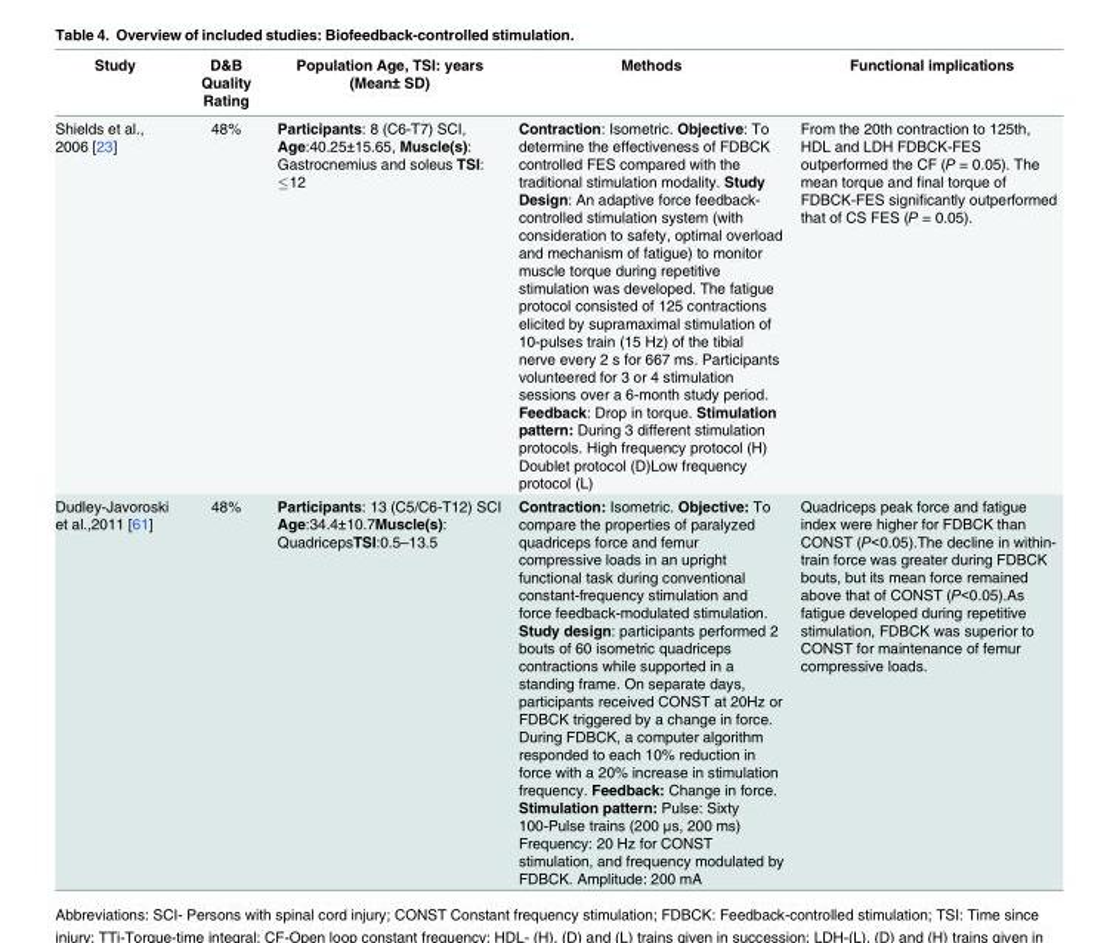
<table><thead><tr><td>Study</td><td>D&amp;B Quality Rating</td><td>Population Age, TSI: years (Mean± SD)</td><td>Methods</td><td>Functional implications</td></tr></thead><tbody><tr><td>Shields et al., 2006 [23]</td><td>48%</td><td>Participants: 8 (C6-T7) SCI, Age:40.25±15.65, Muscle(s): Gastrocnemius and soleus TSI: ≤12</td><td>Contraction: Isometric. Objective: To determine the effectiveness of FDBCK controlled FES compared with the traditional stimulation modality. Study Design: An adaptive force feedback- controlled stimulation system (with consideration to safety, optimal overload and mechanism of fatigue) to monitor muscle torque during repetitive stimulation was developed. The fatigue protocol consisted of 125 contractions elicited by supramaximal stimulation of 10-pulses train (15 Hz) of the tibial nerve every 2 s for 667 ms. Participants volunteered for 3 or 4 stimulation sessions over a 6-month study period. Feedback: Drop in torque. Stimulation pattern: During 3 different stimulation protocols. High frequency protocol (H) Doublet protocol (D)Low frequency protocol (L)</td><td>From the 20th contraction to 125th, HDL and LDH FDBCK-FES outperformed the CF (P = 0.05). The mean torque and final torque of FDBCK-FES significantly outperformed that of CS FES (P = 0.05).</td></tr><tr><td>Dudley-Javoroski et al.,2011 [61]</td><td>48%</td><td>Participants: 13 (C5/C6-T12) SCI Age:34.4±10.7Muscle(s): QuadricepsTSI:0.5–13.5</td><td>Contraction: Isometric. Objective: To compare the properties of paralyzed quadriceps force and femur compressive loads in an upright functional task during conventional constant-frequency stimulation and force feedback-modulated stimulation. Study design: participants performed 2 bouts of 60 isometric quadriceps contractions while supported in a standing frame. On separate days, participants received CONST at 20Hz or FDBCK triggered by a change in force. During FDBCK, a computer algorithm responded to each 10% reduction in force with a 20% increase in stimulation frequency. Feedback: Change in force. Stimulation pattern: Pulse: Sixty 100-Pulse trains (200 μs, 200 ms) Frequency: 20 Hz for CONST stimulation, and frequency modulated by FDBCK. Amplitude: 200 mA</td><td>Quadriceps peak force and fatigue index were higher for FDBCK than CONST (P&lt;0.05).The decline in within- train force was greater during FDBCK bouts, but its mean force remained above that of CONST (P&lt;0.05).As fatigue developed during repetitive stimulation, FDBCK was superior to CONST for maintenance of femur compressive loads.</td></tr></tbody></table>